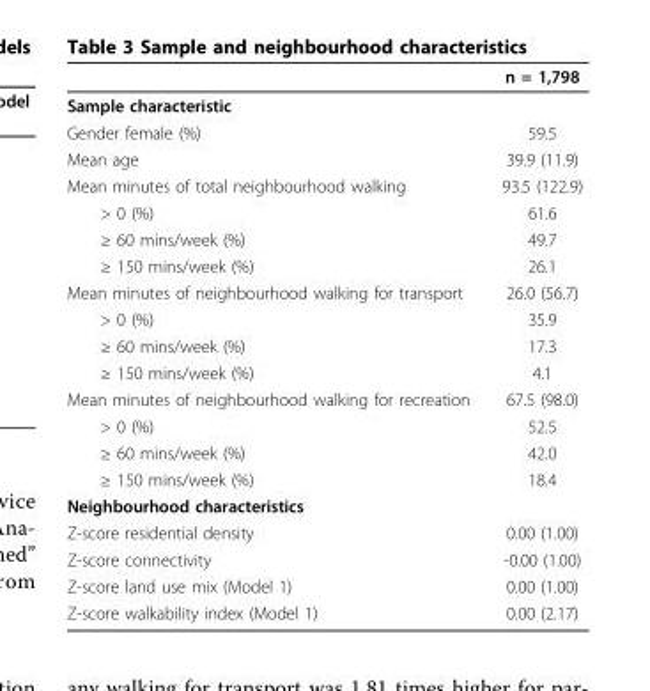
<table><thead><tr><td></td><td>n = 1,798</td></tr></thead><tbody><tr><td colspan="2">Sample characteristic</td></tr><tr><td>Gender female (%)</td><td>59.5</td></tr><tr><td>Mean age</td><td>39.9 (11.9)</td></tr><tr><td>Mean minutes of total neighbourhood walking</td><td>93.5 (122.9)</td></tr><tr><td>&gt; 0 (%)</td><td>61.6</td></tr><tr><td>≥ 60 mins/week (%)</td><td>49.7</td></tr><tr><td>≥ 150 mins/week (%)</td><td>26.1</td></tr><tr><td>Mean minutes of neighbourhood walking for transport</td><td>26.0 (56.7)</td></tr><tr><td>&gt; 0 (%)</td><td>35.9</td></tr><tr><td>≥ 60 mins/week (%)</td><td>17.3</td></tr><tr><td>≥ 150 mins/week (%)</td><td>4.1</td></tr><tr><td>Mean minutes of neighbourhood walking for recreation</td><td>67.5 (98.0)</td></tr><tr><td>&gt; 0 (%)</td><td>52.5</td></tr><tr><td>≥ 60 mins/week (%)</td><td>42.0</td></tr><tr><td>≥ 150 mins/week (%)</td><td>18.4</td></tr><tr><td colspan="2">Neighbourhood characteristics</td></tr><tr><td>Z-score residential density</td><td>0.00 (1.00)</td></tr><tr><td>Z-score connectivity</td><td>-0.00 (1.00)</td></tr><tr><td>Z-score land use mix (Model 1)</td><td>0.00 (1.00)</td></tr><tr><td>Z-score walkability index (Model 1)</td><td>0.00 (2.17)</td></tr></tbody></table>